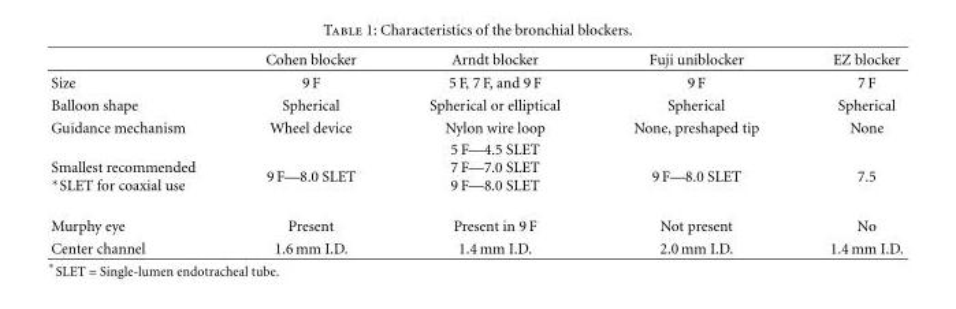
<table><thead><tr><td></td><td>Cohen blocker</td><td>Arndt blocker</td><td>Fuji uniblocker</td><td>EZ blocker</td></tr></thead><tbody><tr><td>Size</td><td>9 F</td><td>5 F, 7 F, and 9 F</td><td>9 F</td><td>7 F</td></tr><tr><td>Balloon shape</td><td>Spherical</td><td>Spherical or elliptical</td><td>Spherical</td><td>Spherical</td></tr><tr><td>Guidance mechanism</td><td>Wheel device</td><td>Nylon wire loop</td><td>None, preshaped tip</td><td>None</td></tr><tr><td>Smallest recommended ∗SLET for coaxial use</td><td>9 F—8.0 SLET</td><td>5 F—4.5 SLET 7 F—7.0 SLET 9 F—8.0 SLET</td><td>9 F—8.0 SLET</td><td>7.5</td></tr><tr><td>Murphy eye</td><td>Present</td><td>Present in 9 F</td><td>Not present</td><td>No</td></tr><tr><td>Center channel</td><td>1.6 mm I.D.</td><td>1.4 mm I.D.</td><td>2.0 mm I.D.</td><td>1.4 mm I.D.</td></tr></tbody></table>